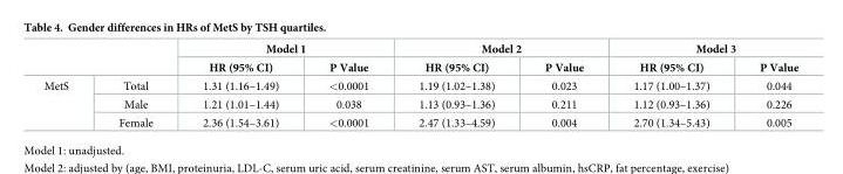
<table><thead><tr><td rowspan="2"></td><td rowspan="2"></td><td colspan="2">Model 1</td><td colspan="2">Model 2</td><td colspan="2">Model 3</td></tr><tr><td>HR (95% CI)</td><td>P Value</td><td>HR (95% CI)</td><td>P Value</td><td>HR (95% CI)</td><td>P Value</td></tr></thead><tbody><tr><td rowspan="3">MetS</td><td>Total</td><td>1.31 (1.16–1.49)</td><td>&lt;0.0001</td><td>1.19 (1.02–1.38)</td><td>0.023</td><td>1.17 (1.00–1.37)</td><td>0.044</td></tr><tr><td>Male</td><td>1.21 (1.01–1.44)</td><td>0.038</td><td>1.13 (0.93–1.36)</td><td>0.211</td><td>1.12 (0.93–1.36)</td><td>0.226</td></tr><tr><td>Female</td><td>2.36 (1.54–3.61)</td><td>&lt;0.0001</td><td>2.47 (1.33–4.59)</td><td>0.004</td><td>2.70 (1.34–5.43)</td><td>0.005</td></tr></tbody></table>